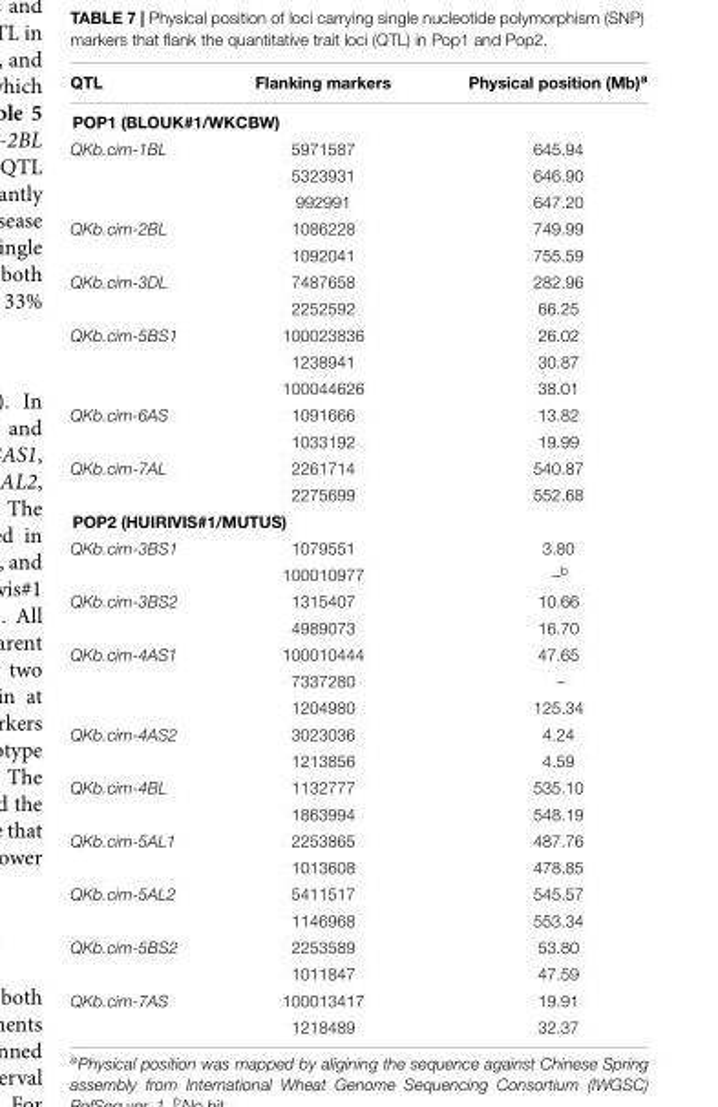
<table><thead><tr><td>QTL</td><td>Flanking markers</td><td>Physical position (Mb)<sup>a</sup></td></tr></thead><tbody><tr><td colspan="3">POP1 (BLOUK#1/WKCBW)</td></tr><tr><td rowspan="3">QKb.cim-1BL</td><td>5971587</td><td>645.94</td></tr><tr><td>5323931</td><td>646.90</td></tr><tr><td>992991</td><td>647.20</td></tr><tr><td rowspan="2">QKb.cim-2BL</td><td>1086228</td><td>749.99</td></tr><tr><td>1092041</td><td>755.59</td></tr><tr><td rowspan="2">QKb.cim-3DL</td><td>7487658</td><td>282.96</td></tr><tr><td>2252592</td><td>66.25</td></tr><tr><td rowspan="3">QKb.cim-5BS1</td><td>100023836</td><td>26.02</td></tr><tr><td>1238941</td><td>30.87</td></tr><tr><td>100044626</td><td>38.01</td></tr><tr><td rowspan="2">QKb.cim-6AS</td><td>1091666</td><td>13.82</td></tr><tr><td>1033192</td><td>19.99</td></tr><tr><td rowspan="2">QKb.cim-7AL</td><td>2261714</td><td>540.87</td></tr><tr><td>2275699</td><td>552.68</td></tr><tr><td colspan="3">POP2 (HUIRIVIS#1/MUTUS)</td></tr><tr><td rowspan="2">QKb.cim-3BS1</td><td>1079551</td><td>3.80</td></tr><tr><td>100010977</td><td>–<sup>b</sup></td></tr><tr><td rowspan="2">QKb.cim-3BS2</td><td>1315407</td><td>10.66</td></tr><tr><td>4989073</td><td>16.70</td></tr><tr><td rowspan="3">QKb.cim-4AS1</td><td>100010444</td><td>47.65</td></tr><tr><td>7337280</td><td>–</td></tr><tr><td>1204980</td><td>125.34</td></tr><tr><td rowspan="2">QKb.cim-4AS2</td><td>3023036</td><td>4.24</td></tr><tr><td>1213856</td><td>4.59</td></tr><tr><td rowspan="2">QKb.cim-4BL</td><td>1132777</td><td>535.10</td></tr><tr><td>1863994</td><td>548.19</td></tr><tr><td rowspan="2">QKb.cim-5AL1</td><td>2253865</td><td>487.76</td></tr><tr><td>1013608</td><td>478.85</td></tr><tr><td rowspan="2">QKb.cim-5AL2</td><td>5411517</td><td>545.57</td></tr><tr><td>1146968</td><td>553.34</td></tr><tr><td rowspan="2">QKb.cim-5BS2</td><td>2253589</td><td>53.80</td></tr><tr><td>1011847</td><td>47.59</td></tr><tr><td rowspan="2">QKb.cim-7AS</td><td>100013417</td><td>19.91</td></tr><tr><td>1218489</td><td>32.37</td></tr></tbody></table>